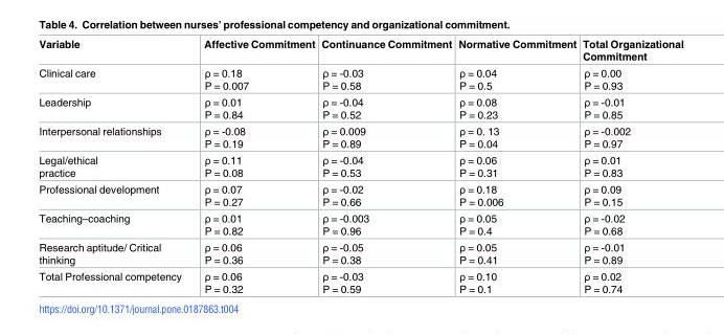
<table><thead><tr><td>Variable</td><td>Affective Commitment</td><td>Continuance Commitment</td><td>Normative Commitment</td><td>Total Organizational Commitment</td></tr></thead><tbody><tr><td>Clinical care</td><td>ρ = 0.18 P = 0.007</td><td>ρ = -0.03 P = 0.58</td><td>ρ = 0.04 P = 0.5</td><td>ρ = 0.00 P = 0.93</td></tr><tr><td>Leadership</td><td>ρ = 0.01 P = 0.84</td><td>ρ = -0.04 P = 0.52</td><td>ρ = 0.08 P = 0.23</td><td>ρ = -0.01 P = 0.85</td></tr><tr><td>Interpersonal relationships</td><td>ρ = -0.08 P = 0.19</td><td>ρ = 0.009 P = 0.89</td><td>ρ = 0. 13 P = 0.04</td><td>ρ = -0.002 P = 0.97</td></tr><tr><td>Legal/ethical practice</td><td>ρ = 0.11 P = 0.08</td><td>ρ = -0.04 P = 0.53</td><td>ρ = 0.06 P = 0.31</td><td>ρ = 0.01 P = 0.83</td></tr><tr><td>Professional development</td><td>ρ = 0.07 P = 0.27</td><td>ρ = -0.02 P = 0.66</td><td>ρ = 0.18 P = 0.006</td><td>ρ = 0.09 P = 0.15</td></tr><tr><td>Teaching–coaching</td><td>ρ = 0.01 P = 0.82</td><td>ρ = -0.003 P = 0.96</td><td>ρ = 0.05 P = 0.4</td><td>ρ = -0.02 P = 0.68</td></tr><tr><td>Research aptitude/ Critical thinking</td><td>ρ = 0.06 P = 0.36</td><td>ρ = -0.05 P = 0.38</td><td>ρ = 0.05 P = 0.41</td><td>ρ = -0.01 P = 0.89</td></tr><tr><td>Total Professional competency</td><td>ρ = 0.06 P = 0.32</td><td>ρ = -0.03 P = 0.59</td><td>ρ = 0.10 P = 0.1</td><td>ρ = 0.02 P = 0.74</td></tr></tbody></table>